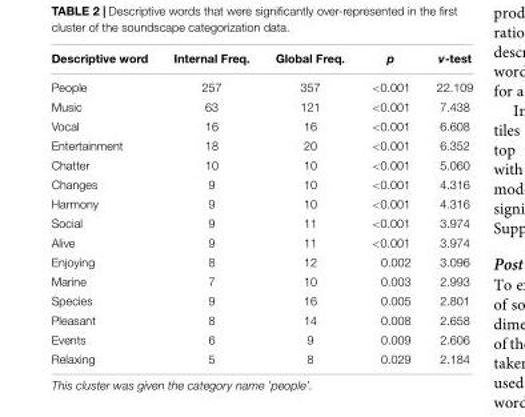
<table><thead><tr><td>Descriptive word</td><td>Internal Freq.</td><td>Global Freq.</td><td>p</td><td>v-test</td></tr></thead><tbody><tr><td>People</td><td>257</td><td>357</td><td>&lt;0.001</td><td>22.109</td></tr><tr><td>Music</td><td>63</td><td>121</td><td>&lt;0.001</td><td>7.438</td></tr><tr><td>Vocal</td><td>16</td><td>16</td><td>&lt;0.001</td><td>6.608</td></tr><tr><td>Entertainment</td><td>18</td><td>20</td><td>&lt;0.001</td><td>6.352</td></tr><tr><td>Chatter</td><td>10</td><td>10</td><td>&lt;0.001</td><td>5.060</td></tr><tr><td>Changes</td><td>9</td><td>10</td><td>&lt;0.001</td><td>4.316</td></tr><tr><td>Harmony</td><td>9</td><td>10</td><td>&lt;0.001</td><td>4.316</td></tr><tr><td>Social</td><td>9</td><td>11</td><td>&lt;0.001</td><td>3.974</td></tr><tr><td>Alive</td><td>9</td><td>11</td><td>&lt;0.001</td><td>3.974</td></tr><tr><td>Enjoying</td><td>8</td><td>12</td><td>0.002</td><td>3.096</td></tr><tr><td>Marine</td><td>7</td><td>10</td><td>0.003</td><td>2.993</td></tr><tr><td>Species</td><td>9</td><td>16</td><td>0.005</td><td>2.801</td></tr><tr><td>Pleasant</td><td>8</td><td>14</td><td>0.008</td><td>2.658</td></tr><tr><td>Events</td><td>6</td><td>9</td><td>0.009</td><td>2.606</td></tr><tr><td>Relaxing</td><td>5</td><td>8</td><td>0.029</td><td>2.184</td></tr></tbody></table>